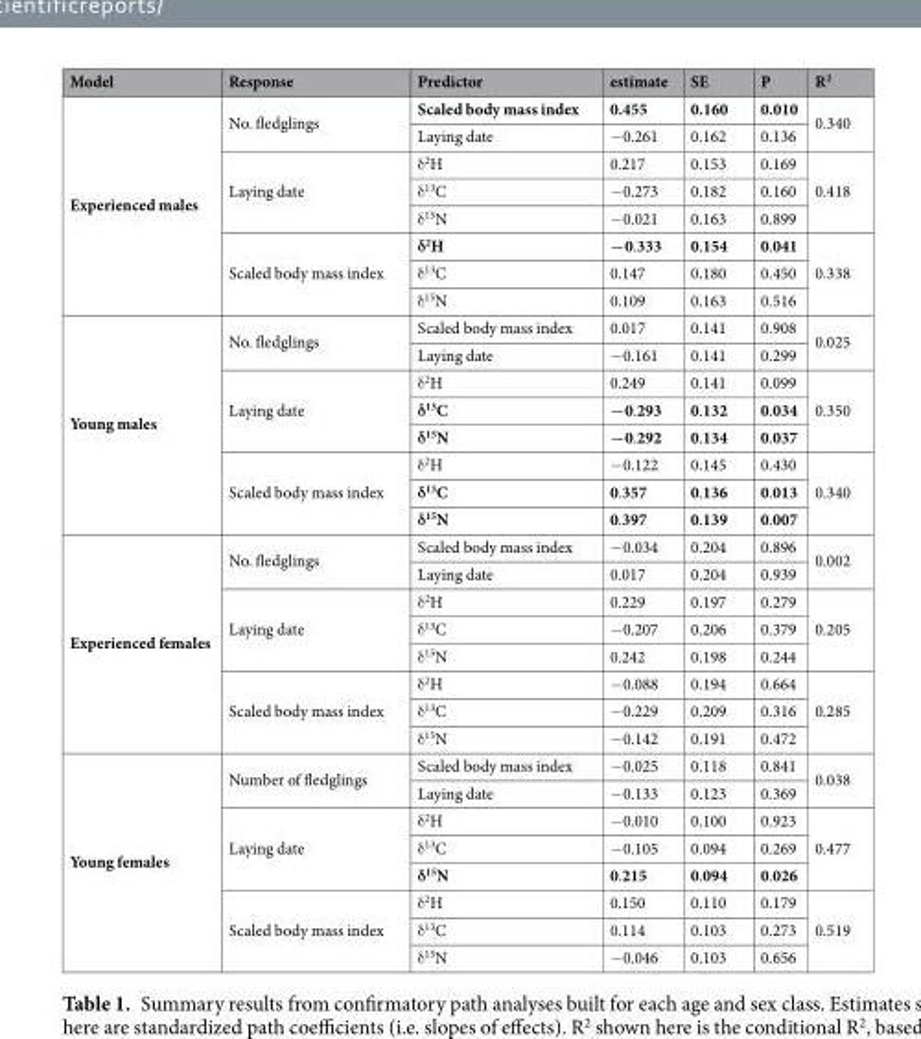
<table><thead><tr><td>Model</td><td>Response</td><td>Predictor</td><td>estimate</td><td>SE</td><td>P</td><td>R<sup>2</sup></td></tr></thead><tbody><tr><td rowspan="8">Experienced males</td><td rowspan="2">No. fledglings</td><td>Scaled body mass index</td><td>0.455</td><td>0.160</td><td>0.010</td><td rowspan="2">0.340</td></tr><tr><td>Laying date</td><td>−0.261</td><td>0.162</td><td>0.136</td></tr><tr><td rowspan="3">Laying date</td><td>δ<sup>2</sup>H</td><td>0.217</td><td>0.153</td><td>0.169</td><td rowspan="3">0.418</td></tr><tr><td>δ<sup>13</sup>C</td><td>−0.273</td><td>0.182</td><td>0.160</td></tr><tr><td>δ<sup>15</sup>N</td><td>−0.021</td><td>0.163</td><td>0.899</td></tr><tr><td rowspan="3">Scaled body mass index</td><td>δ<sup>2</sup>H</td><td>−0.333</td><td>0.154</td><td>0.041</td><td rowspan="3">0.338</td></tr><tr><td>δ<sup>13</sup>C</td><td>0.147</td><td>0.180</td><td>0.450</td></tr><tr><td>δ<sup>15</sup>N</td><td>0.109</td><td>0.163</td><td>0.516</td></tr><tr><td rowspan="8">Young males</td><td rowspan="2">No. fledglings</td><td>Scaled body mass index</td><td>0.017</td><td>0.141</td><td>0.908</td><td rowspan="2">0.025</td></tr><tr><td>Laying date</td><td>−0.161</td><td>0.141</td><td>0.299</td></tr><tr><td rowspan="3">Laying date</td><td>δ<sup>2</sup>H</td><td>0.249</td><td>0.141</td><td>0.099</td><td rowspan="3">0.350</td></tr><tr><td>δ<sup>13</sup>C</td><td>−0.293</td><td>0.132</td><td>0.034</td></tr><tr><td>δ<sup>15</sup>N</td><td>−0.292</td><td>0.134</td><td>0.037</td></tr><tr><td rowspan="3">Scaled body mass index</td><td>δ<sup>2</sup>H</td><td>−0.122</td><td>0.145</td><td>0.430</td><td rowspan="3">0.340</td></tr><tr><td>δ<sup>13</sup>C</td><td>0.357</td><td>0.136</td><td>0.013</td></tr><tr><td>δ<sup>15</sup>N</td><td>0.397</td><td>0.139</td><td>0.007</td></tr><tr><td rowspan="8">Experienced females</td><td rowspan="2">No. fledglings</td><td>Scaled body mass index</td><td>−0.034</td><td>0.204</td><td>0.896</td><td rowspan="2">0.002</td></tr><tr><td>Laying date</td><td>0.017</td><td>0.204</td><td>0.939</td></tr><tr><td rowspan="3">Laying date</td><td>δ<sup>2</sup>H</td><td>0.229</td><td>0.197</td><td>0.279</td><td rowspan="3">0.205</td></tr><tr><td>δ<sup>13</sup>C</td><td>−0.207</td><td>0.206</td><td>0.379</td></tr><tr><td>δ<sup>15</sup>N</td><td>0.242</td><td>0.198</td><td>0.244</td></tr><tr><td rowspan="3">Scaled body mass index</td><td>δ<sup>2</sup>H</td><td>−0.088</td><td>0.194</td><td>0.664</td><td rowspan="3">0.285</td></tr><tr><td>δ<sup>13</sup>C</td><td>−0.229</td><td>0.209</td><td>0.316</td></tr><tr><td>δ<sup>15</sup>N</td><td>−0.142</td><td>0.191</td><td>0.472</td></tr><tr><td rowspan="8">Young females</td><td rowspan="2">Number of fledglings</td><td>Scaled body mass index</td><td>−0.025</td><td>0.118</td><td>0.841</td><td rowspan="2">0.038</td></tr><tr><td>Laying date</td><td>−0.133</td><td>0.123</td><td>0.369</td></tr><tr><td rowspan="3">Laying date</td><td>δ<sup>2</sup>H</td><td>−0.010</td><td>0.100</td><td>0.923</td><td rowspan="3">0.477</td></tr><tr><td>δ<sup>13</sup>C</td><td>−0.105</td><td>0.094</td><td>0.269</td></tr><tr><td>δ<sup>15</sup>N</td><td>0.215</td><td>0.094</td><td>0.026</td></tr><tr><td rowspan="3">Scaled body mass index</td><td>δ<sup>2</sup>H</td><td>0.150</td><td>0.110</td><td>0.179</td><td rowspan="3">0.519</td></tr><tr><td>δ<sup>13</sup>C</td><td>0.114</td><td>0.103</td><td>0.273</td></tr><tr><td>δ<sup>15</sup>N</td><td>−0.046</td><td>0.103</td><td>0.656</td></tr></tbody></table>